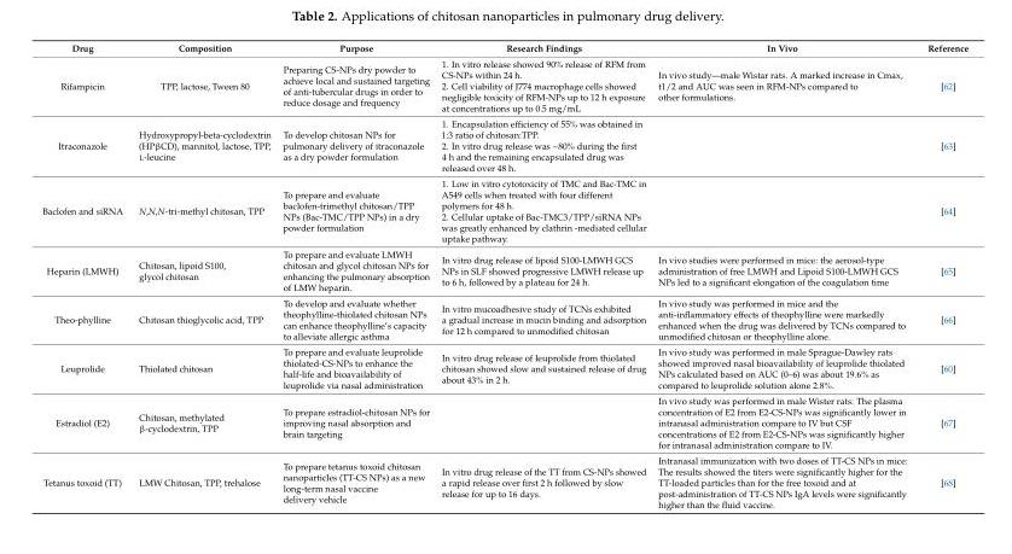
<table><thead><tr><td>Drug</td><td>Composition</td><td>Purpose</td><td>Research Findings</td><td>In Vivo</td><td>Reference</td></tr></thead><tbody><tr><td>Rifampicin</td><td>TPP, lactose, Tween 80</td><td>Preparing CS-NPs dry powder to achieve local and sustained targeting of anti-tubercular drugs in order to reduce dosage and frequency</td><td>1. In vitro release showed 90% release of RFM from CS-NPs within 24 h. 2. Cell viability of J774 macrophage cells showed negligible toxicity of RFM-NPs up to 12 h exposure at concentrations up to 0.5 mg/mL</td><td>In vivo study—male Wistar rats. A marked increase in Cmax, t1/2 and AUC was seen in RFM-NPs compared to other formulations.</td><td>[62]</td></tr><tr><td>Itraconazole</td><td>Hydroxypropyl-beta-cyclodextrin (HPβCD), mannitol, lactose, TPP, L-leucine</td><td>To develop chitosan NPs for pulmonary delivery of itraconazole as a dry powder formulation</td><td>1. Encapsulation efficiency of 55% was obtained in 1:3 ratio of chitosan:TPP. 2. In vitro drug release was ~80% during the first 4 h and the remaining encapsulated drug was released over 48 h.</td><td></td><td>[63]</td></tr><tr><td>Baclofen and siRNA</td><td>N,N,N-tri-methyl chitosan, TPP</td><td>To prepare and evaluate baclofen-trimethyl chitosan/TPP NPs (Bac-TMC/TPP NPs) in a dry powder formulation</td><td>1. Low in vitro cytotoxicity of TMC and Bac-TMC in A549 cells when treated with four different polymers for 48 h. 2. Cellular uptake of Bac-TMC3/TPP/siRNA NPs was greatly enhanced by clathrin -mediated cellular uptake pathway.</td><td></td><td>[64]</td></tr><tr><td>Heparin (LMWH)</td><td>Chitosan, lipoid S100, glycol chitosan</td><td>To prepare and evaluate LMWH chitosan and glycol chitosan NPs for enhancing the pulmonary absorption of LMW heparin.</td><td>In vitro drug release of lipoid S100-LMWH GCS NPs in SLF showed progressive LMWH release up to 6 h, followed by a plateau for 24 h.</td><td>In vivo studies were performed in mice: the aerosol-type administration of free LMWH and Lipoid S100-LMWH GCS NPs led to a significant elongation of the coagulation time</td><td>[65]</td></tr><tr><td>Theo-phylline</td><td>Chitosan thioglycolic acid, TPP</td><td>To develop and evaluate whether theophylline-thiolated chitosan NPs can enhance theophylline’s capacity to alleviate allergic asthma</td><td>In vitro mucoadhesive study of TCNs exhibited a gradual increase in mucin binding and adsorption for 12 h compared to unmodified chitosan</td><td>In vivo study was performed in mice and the anti-inflammatory effects of theophylline were markedly enhanced when the drug was delivered by TCNs compared to unmodified chitosan or theophylline alone.</td><td>[66]</td></tr><tr><td>Leuprolide</td><td>Thiolated chitosan</td><td>To prepare and evaluate leuprolide thiolated-CS-NPs to enhance the half-life and bioavailability of leuprolide via nasal administration</td><td>In vitro drug release of leuprolide from thiolated chitosan showed slow and sustained release of drug about 43% in 2 h.</td><td>In vivo study was performed in male Sprague-Dawley rats showed improved nasal bioavailability of leuprolide thiolated NPs calculated based on AUC (0–6) was about 19.6% as compared to leuprolide solution alone 2.8%.</td><td>[60]</td></tr><tr><td>Estradiol (E2)</td><td>Chitosan, methylated β-cyclodextrin, TPP</td><td>To prepare estradiol-chitosan NPs for improving nasal absorption and brain targeting</td><td></td><td>In vivo study was performed in male Wister rats: The plasma concentration of E2 from E2-CS-NPs was significantly lower in intranasal administration compare to IV but CSF concentrations of E2 from E2-CS-NPs was significantly higher for intranasal administration compare to IV.</td><td>[67]</td></tr><tr><td>Tetanus toxoid (TT)</td><td>LMW Chitosan, TPP, trehalose</td><td>To prepare tetanus toxoid chitosan nanoparticles (TT-CS NPs) as a new long-term nasal vaccine delivery vehicle</td><td>In vitro drug release of the TT from CS-NPs showed a rapid release over first 2 h followed by slow release for up to 16 days.</td><td>Intranasal immunization with two doses of TT-CS NPs in mice: The results showed the titers were significantly higher for the TT-loaded particles than for the free toxoid and at post-administration of TT-CS NPs IgA levels were significantly higher than the fluid vaccine.</td><td>[68]</td></tr></tbody></table>